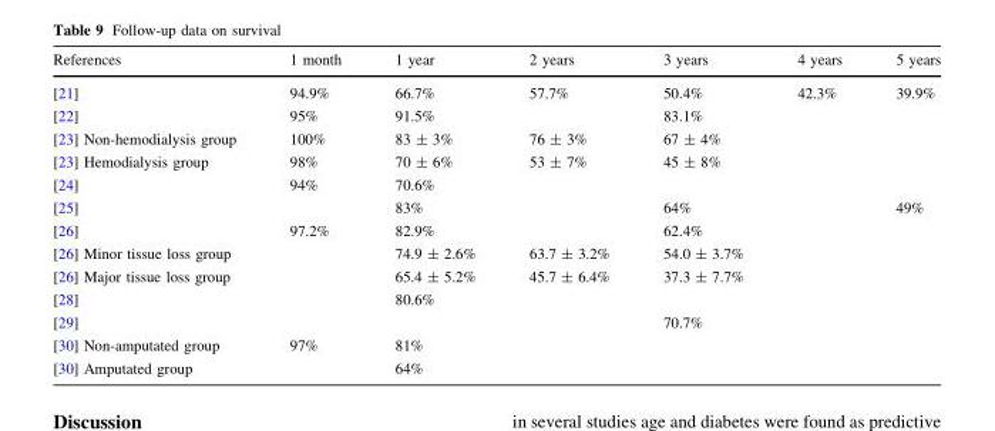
<table><thead><tr><td>References</td><td>1 month</td><td>1 year</td><td>2 years</td><td>3 years</td><td>4 years</td><td>5 years</td></tr></thead><tbody><tr><td>[21]</td><td>94.9%</td><td>66.7%</td><td>57.7%</td><td>50.4%</td><td>42.3%</td><td>39.9%</td></tr><tr><td>[22]</td><td>95%</td><td>91.5%</td><td></td><td>83.1%</td><td></td><td></td></tr><tr><td>[23] Non-hemodialysis group</td><td>100%</td><td>83 ± 3%</td><td>76 ± 3%</td><td>67 ± 4%</td><td></td><td></td></tr><tr><td>[23] Hemodialysis group</td><td>98%</td><td>70 ± 6%</td><td>53 ± 7%</td><td>45 ± 8%</td><td></td><td></td></tr><tr><td>[24]</td><td>94%</td><td>70.6%</td><td></td><td></td><td></td><td></td></tr><tr><td>[25]</td><td></td><td>83%</td><td></td><td>64%</td><td></td><td>49%</td></tr><tr><td>[26]</td><td>97.2%</td><td>82.9%</td><td></td><td>62.4%</td><td></td><td></td></tr><tr><td>[26] Minor tissue loss group</td><td></td><td>74.9 ± 2.6%</td><td>63.7 ± 3.2%</td><td>54.0 ± 3.7%</td><td></td><td></td></tr><tr><td>[26] Major tissue loss group</td><td></td><td>65.4 ± 5.2%</td><td>45.7 ± 6.4%</td><td>37.3 ± 7.7%</td><td></td><td></td></tr><tr><td>[28]</td><td></td><td>80.6%</td><td></td><td></td><td></td><td></td></tr><tr><td>[29]</td><td></td><td></td><td></td><td>70.7%</td><td></td><td></td></tr><tr><td>[30] Non-amputated group</td><td>97%</td><td>81%</td><td></td><td></td><td></td><td></td></tr><tr><td>[30] Amputated group</td><td></td><td>64%</td><td></td><td></td><td></td><td></td></tr></tbody></table>